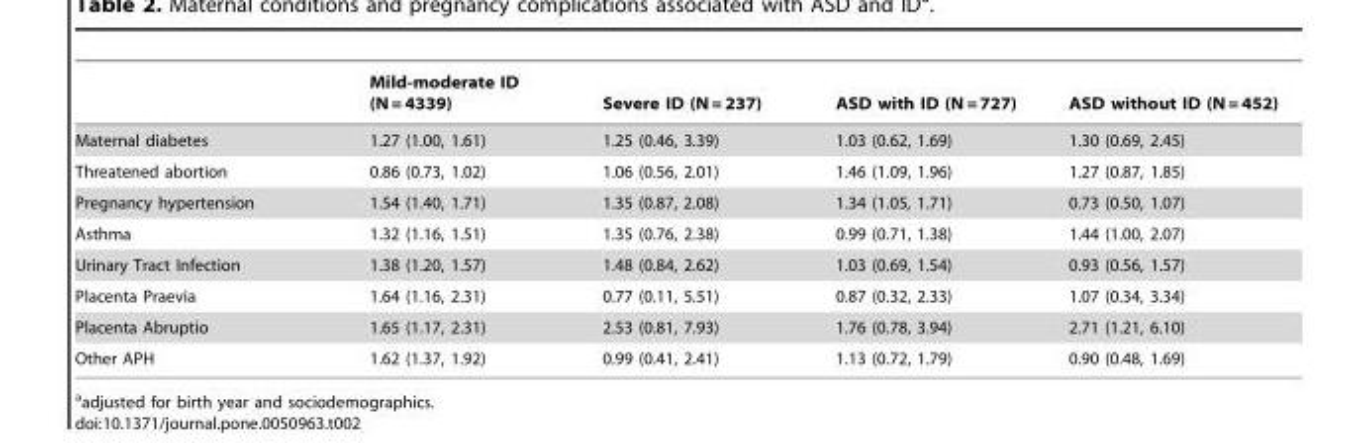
<table><thead><tr><td></td><td>Mild-moderate ID (N = 4339)</td><td>Severe ID (N = 237)</td><td>ASD with ID (N = 727)</td><td>ASD without ID (N = 452)</td></tr></thead><tbody><tr><td>Maternal diabetes</td><td>1.27 (1.00, 1.61)</td><td>1.25 (0.46, 3.39)</td><td>1.03 (0.62, 1.69)</td><td>1.30 (0.69, 2.45)</td></tr><tr><td>Threatened abortion</td><td>0.86 (0.73, 1.02)</td><td>1.06 (0.56, 2.01)</td><td>1.46 (1.09, 1.96)</td><td>1.27 (0.87, 1.85)</td></tr><tr><td>Pregnancy hypertension</td><td>1.54 (1.40, 1.71)</td><td>1.35 (0.87, 2.08)</td><td>1.34 (1.05, 1.71)</td><td>0.73 (0.50, 1.07)</td></tr><tr><td>Asthma</td><td>1.32 (1.16, 1.51)</td><td>1.35 (0.76, 2.38)</td><td>0.99 (0.71, 1.38)</td><td>1.44 (1.00, 2.07)</td></tr><tr><td>Urinary Tract Infection</td><td>1.38 (1.20, 1.57)</td><td>1.48 (0.84, 2.62)</td><td>1.03 (0.69, 1.54)</td><td>0.93 (0.56, 1.57)</td></tr><tr><td>Placenta Praevia</td><td>1.64 (1.16, 2.31)</td><td>0.77 (0.11, 5.51)</td><td>0.87 (0.32, 2.33)</td><td>1.07 (0.34, 3.34)</td></tr><tr><td>Placenta Abruptio</td><td>1.65 (1.17, 2.31)</td><td>2.53 (0.81, 7.93)</td><td>1.76 (0.78, 3.94)</td><td>2.71 (1.21, 6.10)</td></tr><tr><td>Other APH</td><td>1.62 (1.37, 1.92)</td><td>0.99 (0.41, 2.41)</td><td>1.13 (0.72, 1.79)</td><td>0.90 (0.48, 1.69)</td></tr></tbody></table>